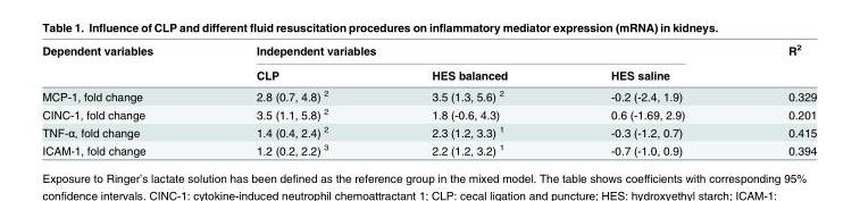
<table><thead><tr><td rowspan="2">Dependent variables</td><td colspan="3">Independent variables</td><td rowspan="2">R<sup>2</sup></td></tr><tr><td>CLP</td><td>HES balanced</td><td>HES saline</td></tr></thead><tbody><tr><td>MCP-1, fold change</td><td>2.8 (0.7, 4.8) <sup>2</sup></td><td>3.5 (1.3, 5.6) <sup>2</sup></td><td>-0.2 (-2.4, 1.9)</td><td>0.329</td></tr><tr><td>CINC-1, fold change</td><td>3.5 (1.1, 5.8) <sup>2</sup></td><td>1.8 (-0.6, 4.3)</td><td>0.6 (-1.69, 2.9)</td><td>0.201</td></tr><tr><td>TNF-α, fold change</td><td>1.4 (0.4, 2.4) <sup>2</sup></td><td>2.3 (1.2, 3.3) <sup>1</sup></td><td>-0.3 (-1.2, 0.7)</td><td>0.415</td></tr><tr><td>ICAM-1, fold change</td><td>1.2 (0.2, 2.2) <sup>3</sup></td><td>2.2 (1.2, 3.2) <sup>1</sup></td><td>-0.7 (-1.0, 0.9)</td><td>0.394</td></tr></tbody></table>